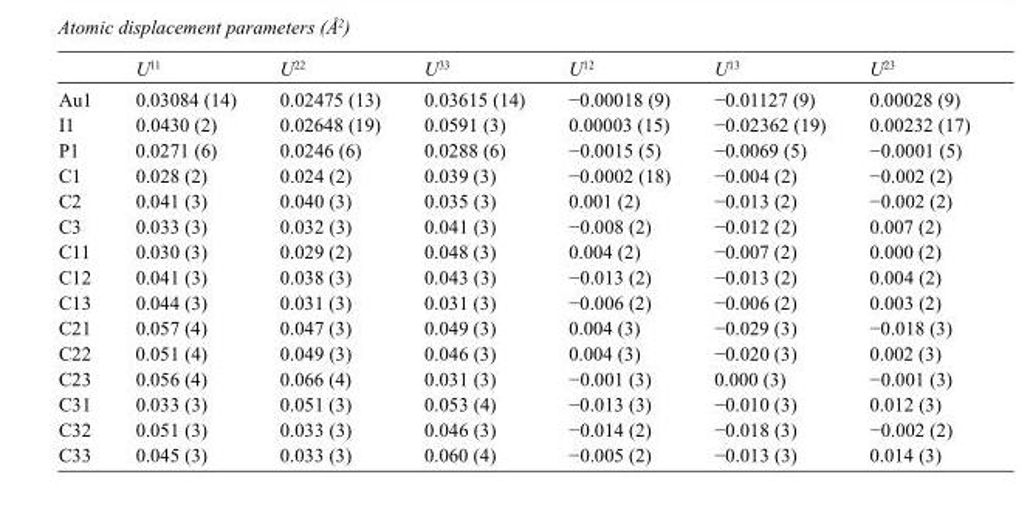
<table><thead><tr><td></td><td>U<sup>11</sup></td><td>U<sup>22</sup></td><td>U<sup>33</sup></td><td>U<sup>12</sup></td><td>U<sup>13</sup></td><td>U<sup>23</sup></td></tr></thead><tbody><tr><td>Au1</td><td>0.03084 (14)</td><td>0.02475 (13)</td><td>0.03615 (14)</td><td>−0.00018 (9)</td><td>−0.01127 (9)</td><td>0.00028 (9)</td></tr><tr><td>I1</td><td>0.0430 (2)</td><td>0.02648 (19)</td><td>0.0591 (3)</td><td>0.00003 (15)</td><td>−0.02362 (19)</td><td>0.00232 (17)</td></tr><tr><td>P1</td><td>0.0271 (6)</td><td>0.0246 (6)</td><td>0.0288 (6)</td><td>−0.0015 (5)</td><td>−0.0069 (5)</td><td>−0.0001 (5)</td></tr><tr><td>C1</td><td>0.028 (2)</td><td>0.024 (2)</td><td>0.039 (3)</td><td>−0.0002 (18)</td><td>−0.004 (2)</td><td>−0.002 (2)</td></tr><tr><td>C2</td><td>0.041 (3)</td><td>0.040 (3)</td><td>0.035 (3)</td><td>0.001 (2)</td><td>−0.013 (2)</td><td>−0.002 (2)</td></tr><tr><td>C3</td><td>0.033 (3)</td><td>0.032 (3)</td><td>0.041 (3)</td><td>−0.008 (2)</td><td>−0.012 (2)</td><td>0.007 (2)</td></tr><tr><td>C11</td><td>0.030 (3)</td><td>0.029 (2)</td><td>0.048 (3)</td><td>0.004 (2)</td><td>−0.007 (2)</td><td>0.000 (2)</td></tr><tr><td>C12</td><td>0.041 (3)</td><td>0.038 (3)</td><td>0.043 (3)</td><td>−0.013 (2)</td><td>−0.013 (2)</td><td>0.004 (2)</td></tr><tr><td>C13</td><td>0.044 (3)</td><td>0.031 (3)</td><td>0.031 (3)</td><td>−0.006 (2)</td><td>−0.006 (2)</td><td>0.003 (2)</td></tr><tr><td>C21</td><td>0.057 (4)</td><td>0.047 (3)</td><td>0.049 (3)</td><td>0.004 (3)</td><td>−0.029 (3)</td><td>−0.018 (3)</td></tr><tr><td>C22</td><td>0.051 (4)</td><td>0.049 (3)</td><td>0.046 (3)</td><td>0.004 (3)</td><td>−0.020 (3)</td><td>0.002 (3)</td></tr><tr><td>C23</td><td>0.056 (4)</td><td>0.066 (4)</td><td>0.031 (3)</td><td>−0.001 (3)</td><td>0.000 (3)</td><td>−0.001 (3)</td></tr><tr><td>C31</td><td>0.033 (3)</td><td>0.051 (3)</td><td>0.053 (4)</td><td>−0.013 (3)</td><td>−0.010 (3)</td><td>0.012 (3)</td></tr><tr><td>C32</td><td>0.051 (3)</td><td>0.033 (3)</td><td>0.046 (3)</td><td>−0.014 (2)</td><td>−0.018 (3)</td><td>−0.002 (2)</td></tr><tr><td>C33</td><td>0.045 (3)</td><td>0.033 (3)</td><td>0.060 (4)</td><td>−0.005 (2)</td><td>−0.013 (3)</td><td>0.014 (3)</td></tr></tbody></table>